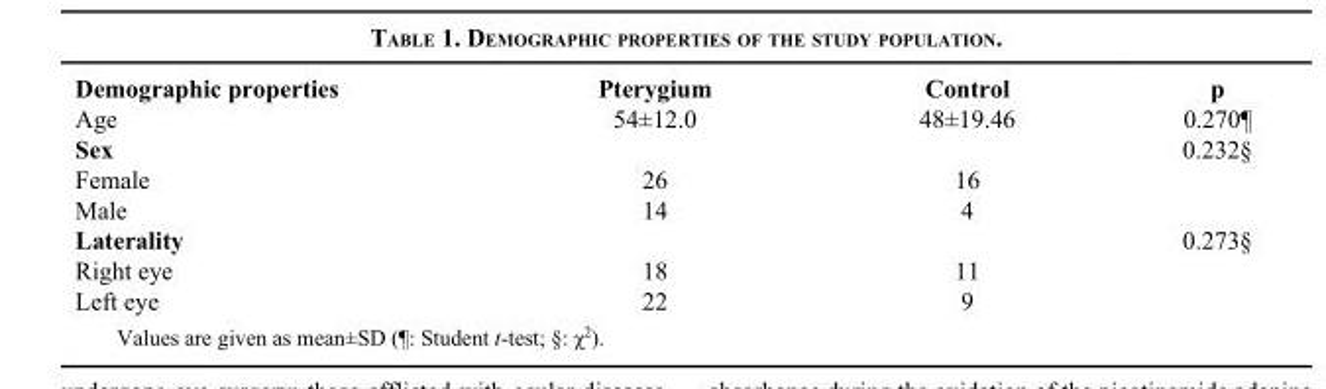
<table><thead><tr><td>Demographic properties</td><td>Pterygium</td><td>Control</td><td>p</td></tr></thead><tbody><tr><td>Age</td><td>54±12.0</td><td>48±19.46</td><td>0.270¶</td></tr><tr><td>Sex</td><td></td><td></td><td>0.232§</td></tr><tr><td>Female</td><td>26</td><td>16</td><td></td></tr><tr><td>Male</td><td>14</td><td>4</td><td></td></tr><tr><td>Laterality</td><td></td><td></td><td>0.273§</td></tr><tr><td>Right eye</td><td>18</td><td>11</td><td></td></tr><tr><td>Left eye</td><td>22</td><td>9</td><td></td></tr></tbody></table>